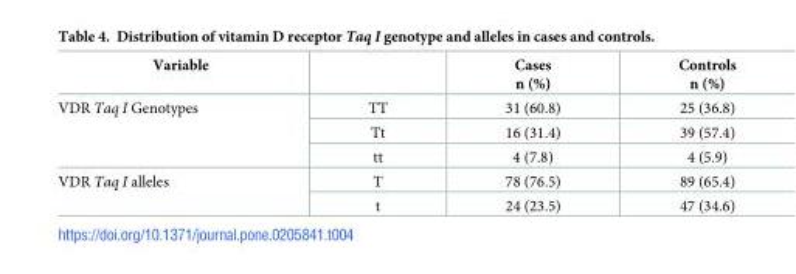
<table><thead><tr><td>Variable</td><td></td><td>Cases n (%)</td><td>Controls n (%)</td></tr></thead><tbody><tr><td rowspan="3">VDR Taq I Genotypes</td><td>TT</td><td>31 (60.8)</td><td>25 (36.8)</td></tr><tr><td>Tt</td><td>16 (31.4)</td><td>39 (57.4)</td></tr><tr><td>tt</td><td>4 (7.8)</td><td>4 (5.9)</td></tr><tr><td rowspan="2">VDR Taq I alleles</td><td>T</td><td>78 (76.5)</td><td>89 (65.4)</td></tr><tr><td>t</td><td>24 (23.5)</td><td>47 (34.6)</td></tr></tbody></table>